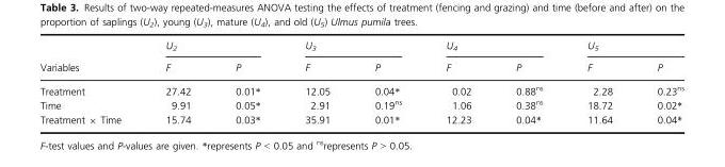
<table><thead><tr><td rowspan="2">Variables</td><td colspan="2">U<sub>2</sub></td><td colspan="2">U<sub>3</sub></td><td colspan="2">U<sub>4</sub></td><td colspan="2">U<sub>5</sub></td></tr><tr><td>F</td><td>P</td><td>F</td><td>P</td><td>F</td><td>P</td><td>F</td><td>P</td></tr></thead><tbody><tr><td>Treatment</td><td>27.42</td><td>0.01*</td><td>12.05</td><td>0.04*</td><td>0.02</td><td>0.88<sup>ns</sup></td><td>2.28</td><td>0.23<sup>ns</sup></td></tr><tr><td>Time</td><td>9.91</td><td>0.05*</td><td>2.91</td><td>0.19<sup>ns</sup></td><td>1.06</td><td>0.38<sup>ns</sup></td><td>18.72</td><td>0.02*</td></tr><tr><td>Treatment × Time</td><td>15.74</td><td>0.03*</td><td>35.91</td><td>0.01*</td><td>12.23</td><td>0.04*</td><td>11.64</td><td>0.04*</td></tr></tbody></table>